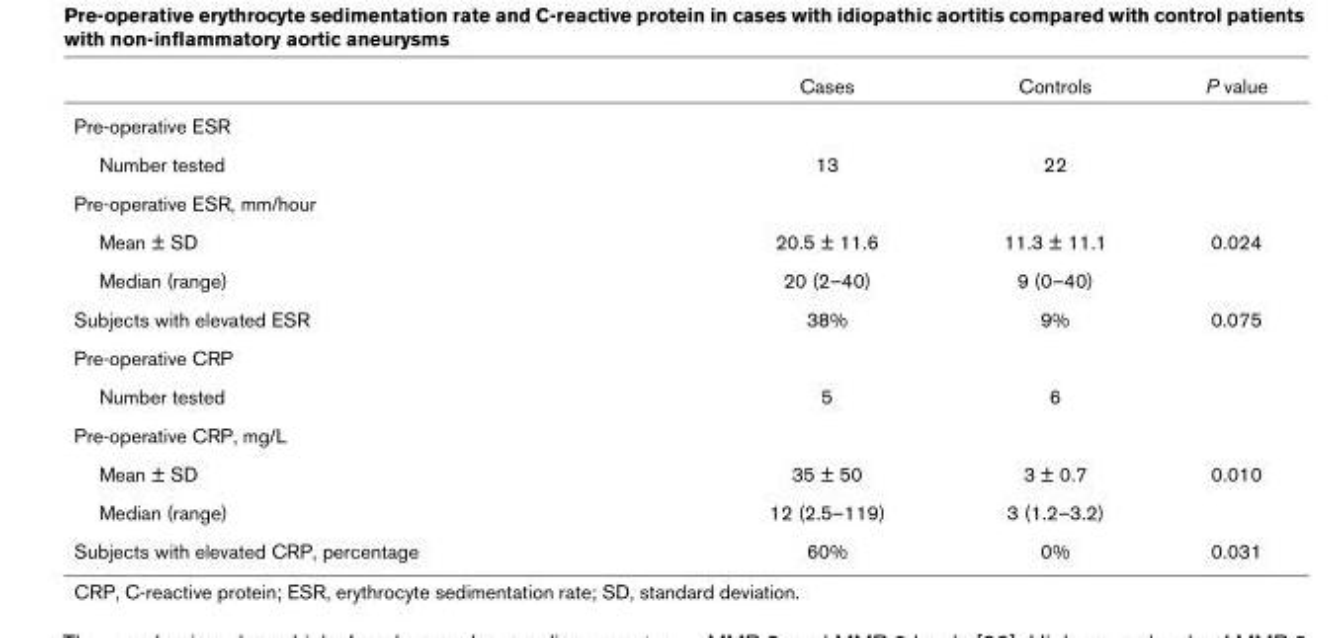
<table><thead><tr><td></td><td>Cases</td><td>Controls</td><td>P value</td></tr></thead><tbody><tr><td colspan="4">Pre-operative ESR</td></tr><tr><td>Number tested</td><td>13</td><td>22</td><td></td></tr><tr><td colspan="4">Pre-operative ESR, mm/hour</td></tr><tr><td>Mean ± SD</td><td>20.5 ± 11.6</td><td>11.3 ± 11.1</td><td>0.024</td></tr><tr><td>Median (range)</td><td>20 (2–40)</td><td>9 (0–40)</td><td></td></tr><tr><td>Subjects with elevated ESR</td><td>38%</td><td>9%</td><td>0.075</td></tr><tr><td colspan="4">Pre-operative CRP</td></tr><tr><td>Number tested</td><td>5</td><td>6</td><td></td></tr><tr><td colspan="4">Pre-operative CRP, mg/L</td></tr><tr><td>Mean ± SD</td><td>35 ± 50</td><td>3 ± 0.7</td><td>0.010</td></tr><tr><td>Median (range)</td><td>12 (2.5–119)</td><td>3 (1.2–3.2)</td><td></td></tr><tr><td>Subjects with elevated CRP, percentage</td><td>60%</td><td>0%</td><td>0.031</td></tr></tbody></table>